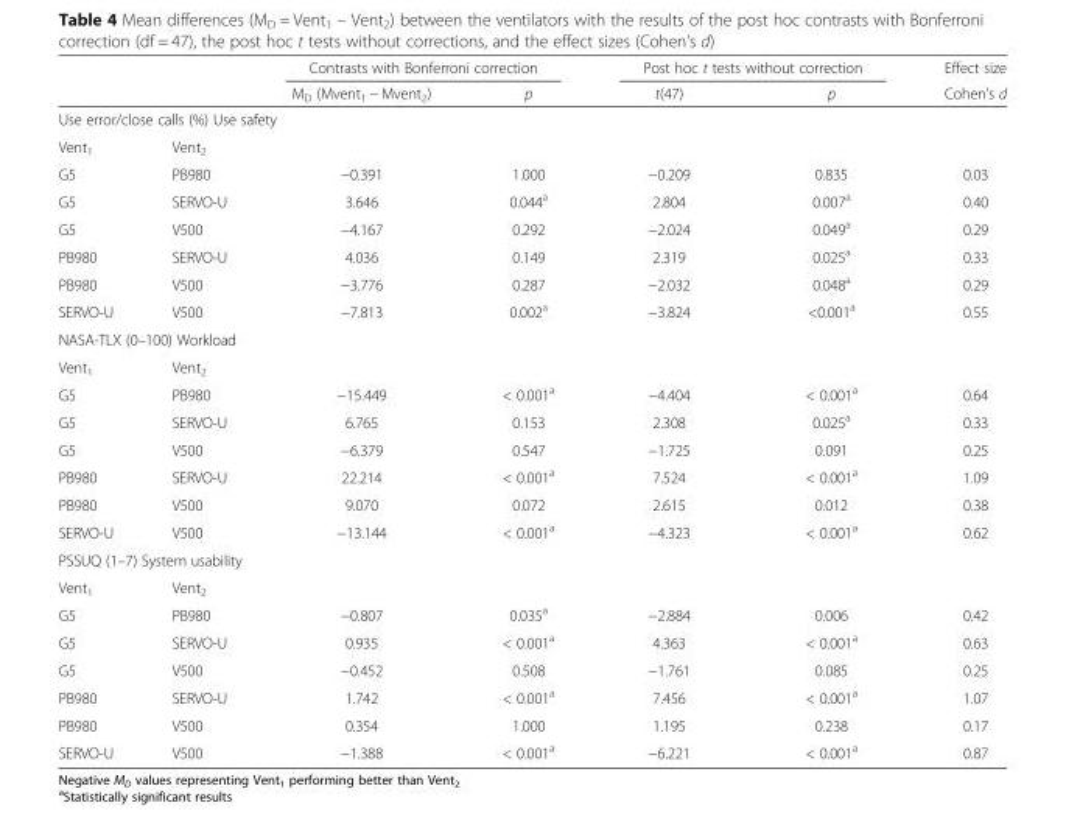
<table><thead><tr><td rowspan="2"></td><td rowspan="2"></td><td colspan="2">Contrasts with Bonferroni correction</td><td colspan="2">Post hoc t tests without correction</td><td rowspan="2">Effect size Cohen’s d</td></tr><tr><td>M<sub>D</sub> (Mvent<sub>1</sub> − Mvent<sub>2</sub>)</td><td>p</td><td>t(47)</td><td>p</td></tr></thead><tbody><tr><td colspan="7">Use error/close calls (%) Use safety</td></tr><tr><td>Vent<sub>1</sub></td><td>Vent<sub>2</sub></td><td></td><td></td><td></td><td></td><td></td></tr><tr><td>G5</td><td>PB980</td><td>−0.391</td><td>1.000</td><td>−0.209</td><td>0.835</td><td>0.03</td></tr><tr><td>G5</td><td>SERVO-U</td><td>3.646</td><td>0.044<sup>a</sup></td><td>2.804</td><td>0.007<sup>a</sup></td><td>0.40</td></tr><tr><td>G5</td><td>V500</td><td>−4.167</td><td>0.292</td><td>−2.024</td><td>0.049<sup>a</sup></td><td>0.29</td></tr><tr><td>PB980</td><td>SERVO-U</td><td>4.036</td><td>0.149</td><td>2.319</td><td>0.025<sup>a</sup></td><td>0.33</td></tr><tr><td>PB980</td><td>V500</td><td>−3.776</td><td>0.287</td><td>−2.032</td><td>0.048<sup>a</sup></td><td>0.29</td></tr><tr><td>SERVO-U</td><td>V500</td><td>−7.813</td><td>0.002<sup>a</sup></td><td>−3.824</td><td>&lt;0.001<sup>a</sup></td><td>0.55</td></tr><tr><td colspan="7">NASA-TLX (0–100) Workload</td></tr><tr><td>Vent<sub>1</sub></td><td>Vent<sub>2</sub></td><td></td><td></td><td></td><td></td><td></td></tr><tr><td>G5</td><td>PB980</td><td>−15.449</td><td>&lt; 0.001<sup>a</sup></td><td>−4.404</td><td>&lt; 0.001<sup>a</sup></td><td>0.64</td></tr><tr><td>G5</td><td>SERVO-U</td><td>6.765</td><td>0.153</td><td>2.308</td><td>0.025<sup>a</sup></td><td>0.33</td></tr><tr><td>G5</td><td>V500</td><td>−6.379</td><td>0.547</td><td>−1.725</td><td>0.091</td><td>0.25</td></tr><tr><td>PB980</td><td>SERVO-U</td><td>22.214</td><td>&lt; 0.001<sup>a</sup></td><td>7.524</td><td>&lt; 0.001<sup>a</sup></td><td>1.09</td></tr><tr><td>PB980</td><td>V500</td><td>9.070</td><td>0.072</td><td>2.615</td><td>0.012</td><td>0.38</td></tr><tr><td>SERVO-U</td><td>V500</td><td>−13.144</td><td>&lt; 0.001<sup>a</sup></td><td>−4.323</td><td>&lt; 0.001<sup>a</sup></td><td>0.62</td></tr><tr><td colspan="7">PSSUQ (1–7) System usability</td></tr><tr><td>Vent<sub>1</sub></td><td>Vent<sub>2</sub></td><td></td><td></td><td></td><td></td><td></td></tr><tr><td>G5</td><td>PB980</td><td>−0.807</td><td>0.035<sup>a</sup></td><td>−2.884</td><td>0.006</td><td>0.42</td></tr><tr><td>G5</td><td>SERVO-U</td><td>0.935</td><td>&lt; 0.001<sup>a</sup></td><td>4.363</td><td>&lt; 0.001<sup>a</sup></td><td>0.63</td></tr><tr><td>G5</td><td>V500</td><td>−0.452</td><td>0.508</td><td>−1.761</td><td>0.085</td><td>0.25</td></tr><tr><td>PB980</td><td>SERVO-U</td><td>1.742</td><td>&lt; 0.001<sup>a</sup></td><td>7.456</td><td>&lt; 0.001<sup>a</sup></td><td>1.07</td></tr><tr><td>PB980</td><td>V500</td><td>0.354</td><td>1.000</td><td>1.195</td><td>0.238</td><td>0.17</td></tr><tr><td>SERVO-U</td><td>V500</td><td>−1.388</td><td>&lt; 0.001<sup>a</sup></td><td>−6.221</td><td>&lt; 0.001<sup>a</sup></td><td>0.87</td></tr></tbody></table>